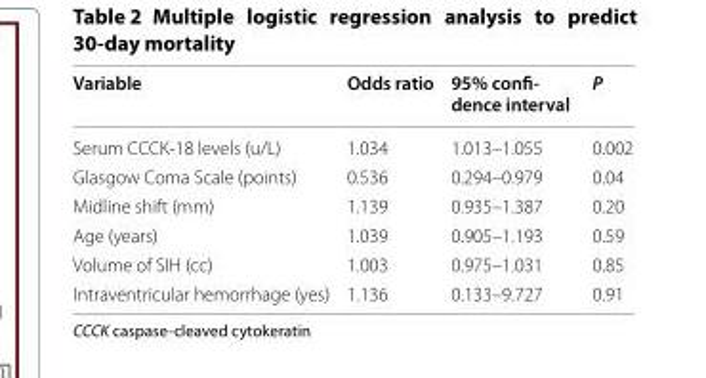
<table><thead><tr><td>Variable</td><td>Odds ratio</td><td>95% confi‑ dence interval</td><td>P</td></tr></thead><tbody><tr><td>Serum CCCK‑18 levels (u/L)</td><td>1.034</td><td>1.013–1.055</td><td>0.002</td></tr><tr><td>Glasgow Coma Scale (points)</td><td>0.536</td><td>0.294–0.979</td><td>0.04</td></tr><tr><td>Midline shift (mm)</td><td>1.139</td><td>0.935–1.387</td><td>0.20</td></tr><tr><td>Age (years)</td><td>1.039</td><td>0.905–1.193</td><td>0.59</td></tr><tr><td>Volume of SIH (cc)</td><td>1.003</td><td>0.975–1.031</td><td>0.85</td></tr><tr><td>Intraventricular hemorrhage (yes)</td><td>1.136</td><td>0.133–9.727</td><td>0.91</td></tr></tbody></table>